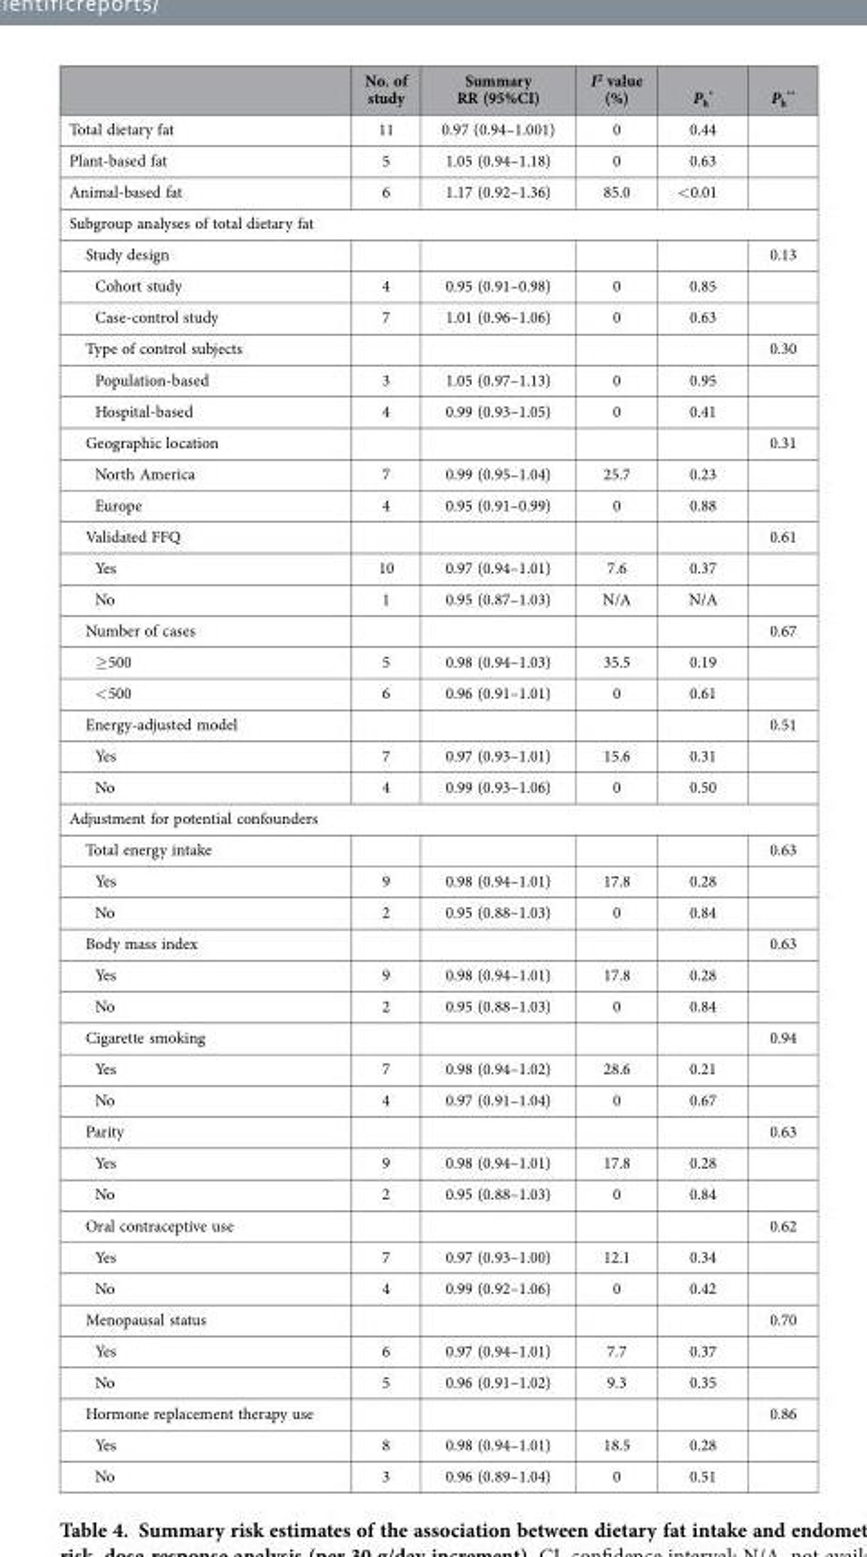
<table><thead><tr><td></td><td>No. of study</td><td>Summary RR (95%CI)</td><td>I<sup>2</sup> value (%)</td><td>P<sub>h</sub> *</td><td>P<sub>h</sub> **</td></tr></thead><tbody><tr><td>Total dietary fat</td><td>11</td><td>0.97 (0.94–1.001)</td><td>0</td><td>0.44</td><td></td></tr><tr><td>Plant-based fat</td><td>5</td><td>1.05 (0.94–1.18)</td><td>0</td><td>0.63</td><td></td></tr><tr><td>Animal-based fat</td><td>6</td><td>1.17 (0.92–1.36)</td><td>85.0</td><td>&lt; 0.01</td><td></td></tr><tr><td colspan="6">Subgroup analyses of total dietary fat</td></tr><tr><td>Study design</td><td></td><td></td><td></td><td></td><td>0.13</td></tr><tr><td>Cohort study</td><td>4</td><td>0.95 (0.91–0.98)</td><td>0</td><td>0.85</td><td></td></tr><tr><td>Case-control study</td><td>7</td><td>1.01 (0.96–1.06)</td><td>0</td><td>0.63</td><td></td></tr><tr><td>Type of control subjects</td><td></td><td></td><td></td><td></td><td>0.30</td></tr><tr><td>Population-based</td><td>3</td><td>1.05 (0.97–1.13)</td><td>0</td><td>0.95</td><td></td></tr><tr><td>Hospital-based</td><td>4</td><td>0.99 (0.93–1.05)</td><td>0</td><td>0.41</td><td></td></tr><tr><td>Geographic location</td><td></td><td></td><td></td><td></td><td>0.31</td></tr><tr><td>North America</td><td>7</td><td>0.99 (0.95–1.04)</td><td>25.7</td><td>0.23</td><td></td></tr><tr><td>Europe</td><td>4</td><td>0.95 (0.91–0.99)</td><td>0</td><td>0.88</td><td></td></tr><tr><td>Validated FFQ</td><td></td><td></td><td></td><td></td><td>0.61</td></tr><tr><td>Yes</td><td>10</td><td>0.97 (0.94–1.01)</td><td>7.6</td><td>0.37</td><td></td></tr><tr><td>No</td><td>1</td><td>0.95 (0.87–1.03)</td><td>N/A</td><td>N/A</td><td></td></tr><tr><td>Number of cases</td><td></td><td></td><td></td><td></td><td>0.67</td></tr><tr><td>≥ 500</td><td>5</td><td>0.98 (0.94–1.03)</td><td>35.5</td><td>0.19</td><td></td></tr><tr><td>&lt; 500</td><td>6</td><td>0.96 (0.91–1.01)</td><td>0</td><td>0.61</td><td></td></tr><tr><td>Energy-adjusted model</td><td></td><td></td><td></td><td></td><td>0.51</td></tr><tr><td>Yes</td><td>7</td><td>0.97 (0.93–1.01)</td><td>15.6</td><td>0.31</td><td></td></tr><tr><td>No</td><td>4</td><td>0.99 (0.93–1.06)</td><td>0</td><td>0.50</td><td></td></tr><tr><td colspan="6">Adjustment for potential confounders</td></tr><tr><td>Total energy intake</td><td></td><td></td><td></td><td></td><td>0.63</td></tr><tr><td>Yes</td><td>9</td><td>0.98 (0.94–1.01)</td><td>17.8</td><td>0.28</td><td></td></tr><tr><td>No</td><td>2</td><td>0.95 (0.88–1.03)</td><td>0</td><td>0.84</td><td></td></tr><tr><td>Body mass index</td><td></td><td></td><td></td><td></td><td>0.63</td></tr><tr><td>Yes</td><td>9</td><td>0.98 (0.94–1.01)</td><td>17.8</td><td>0.28</td><td></td></tr><tr><td>No</td><td>2</td><td>0.95 (0.88–1.03)</td><td>0</td><td>0.84</td><td></td></tr><tr><td>Cigarette smoking</td><td></td><td></td><td></td><td></td><td>0.94</td></tr><tr><td>Yes</td><td>7</td><td>0.98 (0.94–1.02)</td><td>28.6</td><td>0.21</td><td></td></tr><tr><td>No</td><td>4</td><td>0.97 (0.91–1.04)</td><td>0</td><td>0.67</td><td></td></tr><tr><td>Parity</td><td></td><td></td><td></td><td></td><td>0.63</td></tr><tr><td>Yes</td><td>9</td><td>0.98 (0.94–1.01)</td><td>17.8</td><td>0.28</td><td></td></tr><tr><td>No</td><td>2</td><td>0.95 (0.88–1.03)</td><td>0</td><td>0.84</td><td></td></tr><tr><td>Oral contraceptive use</td><td></td><td></td><td></td><td></td><td>0.62</td></tr><tr><td>Yes</td><td>7</td><td>0.97 (0.93–1.00)</td><td>12.1</td><td>0.34</td><td></td></tr><tr><td>No</td><td>4</td><td>0.99 (0.92–1.06)</td><td>0</td><td>0.42</td><td></td></tr><tr><td>Menopausal status</td><td></td><td></td><td></td><td></td><td>0.70</td></tr><tr><td>Yes</td><td>6</td><td>0.97 (0.94–1.01)</td><td>7.7</td><td>0.37</td><td></td></tr><tr><td>No</td><td>5</td><td>0.96 (0.91–1.02)</td><td>9.3</td><td>0.35</td><td></td></tr><tr><td>Hormone replacement therapy use</td><td></td><td></td><td></td><td></td><td>0.86</td></tr><tr><td>Yes</td><td>8</td><td>0.98 (0.94–1.01)</td><td>18.5</td><td>0.28</td><td></td></tr><tr><td>No</td><td>3</td><td>0.96 (0.89–1.04)</td><td>0</td><td>0.51</td><td></td></tr></tbody></table>